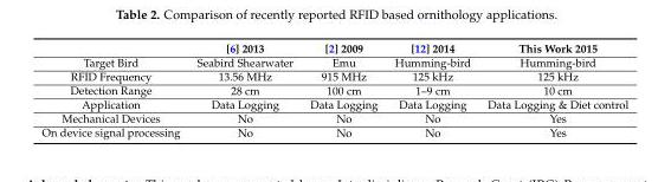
<table><thead><tr><td></td><td>[6] 2013</td><td>[2] 2009</td><td>[12] 2014</td><td>This Work 2015</td></tr></thead><tbody><tr><td>Target Bird</td><td>Seabird Shearwater</td><td>Emu</td><td>Humming-bird</td><td>Humming-bird</td></tr><tr><td>RFID Frequency</td><td>13.56 MHz</td><td>915 MHz</td><td>125 kHz</td><td>125 kHz</td></tr><tr><td>Detection Range</td><td>28 cm</td><td>100 cm</td><td>1–9 cm</td><td>10 cm</td></tr><tr><td>Application</td><td>Data Logging</td><td>Data Logging</td><td>Data Logging</td><td>Data Logging &amp; Diet control</td></tr><tr><td>Mechanical Devices</td><td>No</td><td>No</td><td>No</td><td>Yes</td></tr><tr><td>On device signal processing</td><td>No</td><td>No</td><td>No</td><td>Yes</td></tr></tbody></table>